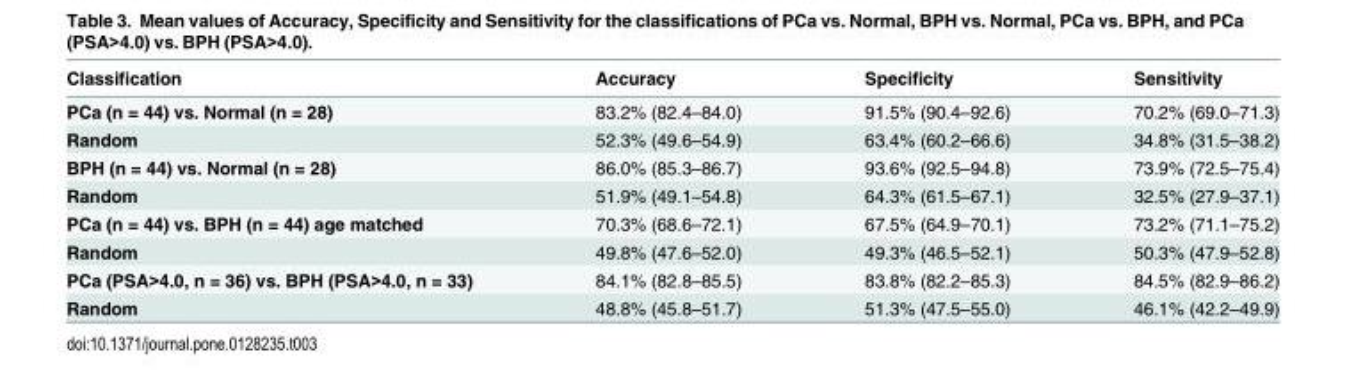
<table><thead><tr><td>Classification</td><td>Accuracy</td><td>Specificity</td><td>Sensitivity</td></tr></thead><tbody><tr><td>PCa (n = 44) vs. Normal (n = 28)</td><td>83.2% (82.4–84.0)</td><td>91.5% (90.4–92.6)</td><td>70.2% (69.0–71.3)</td></tr><tr><td>Random</td><td>52.3% (49.6–54.9)</td><td>63.4% (60.2–66.6)</td><td>34.8% (31.5–38.2)</td></tr><tr><td>BPH (n = 44) vs. Normal (n = 28)</td><td>86.0% (85.3–86.7)</td><td>93.6% (92.5–94.8)</td><td>73.9% (72.5–75.4)</td></tr><tr><td>Random</td><td>51.9% (49.1–54.8)</td><td>64.3% (61.5–67.1)</td><td>32.5% (27.9–37.1)</td></tr><tr><td>PCa (n = 44) vs. BPH (n = 44) age matched</td><td>70.3% (68.6–72.1)</td><td>67.5% (64.9–70.1)</td><td>73.2% (71.1–75.2)</td></tr><tr><td>Random</td><td>49.8% (47.6–52.0)</td><td>49.3% (46.5–52.1)</td><td>50.3% (47.9–52.8)</td></tr><tr><td>PCa (PSA&gt;4.0, n = 36) vs. BPH (PSA&gt;4.0, n = 33)</td><td>84.1% (82.8–85.5)</td><td>83.8% (82.2–85.3)</td><td>84.5% (82.9–86.2)</td></tr><tr><td>Random</td><td>48.8% (45.8–51.7)</td><td>51.3% (47.5–55.0)</td><td>46.1% (42.2–49.9)</td></tr></tbody></table>